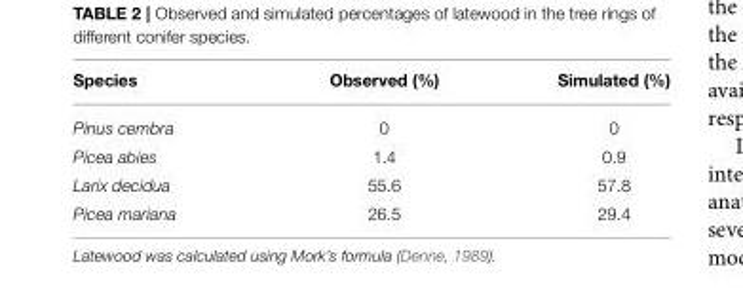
<table><thead><tr><td>Species</td><td>Observed (%)</td><td>Simulated (%)</td></tr></thead><tbody><tr><td>Pinus cembra</td><td>0</td><td>0</td></tr><tr><td>Picea abies</td><td>1.4</td><td>0.9</td></tr><tr><td>Larix decidua</td><td>55.6</td><td>57.8</td></tr><tr><td>Picea mariana</td><td>26.5</td><td>29.4</td></tr></tbody></table>